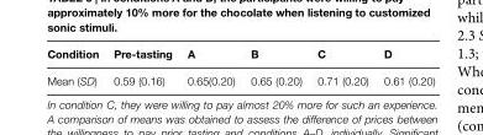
<table><thead><tr><td>Condition</td><td>Pre-tasting</td><td>A</td><td>B</td><td>C</td><td>D</td></tr></thead><tbody><tr><td>Mean (SD)</td><td>0.59 (0.16)</td><td>0.65(0.20)</td><td>0.65 (0.20)</td><td>0.71 (0.20)</td><td>0.61 (0.20)</td></tr></tbody></table>